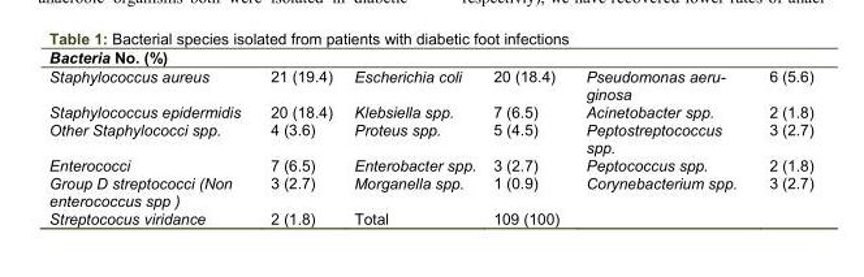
<table><thead><tr><td colspan="6">Bacteria No. (%)</td></tr><tr><td>Staphylococcus aureus</td><td>21 (19.4)</td><td>Escherichia coli</td><td>20 (18.4)</td><td>Pseudomonas aeru- ginosa</td><td>6 (5.6)</td></tr></thead><tbody><tr><td>Staphylococcus epidermidis</td><td>20 (18.4)</td><td>Klebsiella spp.</td><td>7 (6.5)</td><td>Acinetobacter spp.</td><td>2 (1.8)</td></tr><tr><td>Other Staphylococci spp.</td><td>4 (3.6)</td><td>Proteus spp.</td><td>5 (4.5)</td><td>Peptostreptococcus spp.</td><td>3 (2.7)</td></tr><tr><td>Enterococci</td><td>7 (6.5)</td><td>Enterobacter spp.</td><td>3 (2.7)</td><td>Peptococcus spp.</td><td>2 (1.8)</td></tr><tr><td>Group D streptococci (Non enterococcus spp )</td><td>3 (2.7)</td><td>Morganella spp.</td><td>1 (0.9)</td><td>Corynebacterium spp.</td><td>3 (2.7)</td></tr><tr><td>Streptococus viridance</td><td>2 (1.8)</td><td>Total</td><td>109 (100)</td><td></td><td></td></tr></tbody></table>